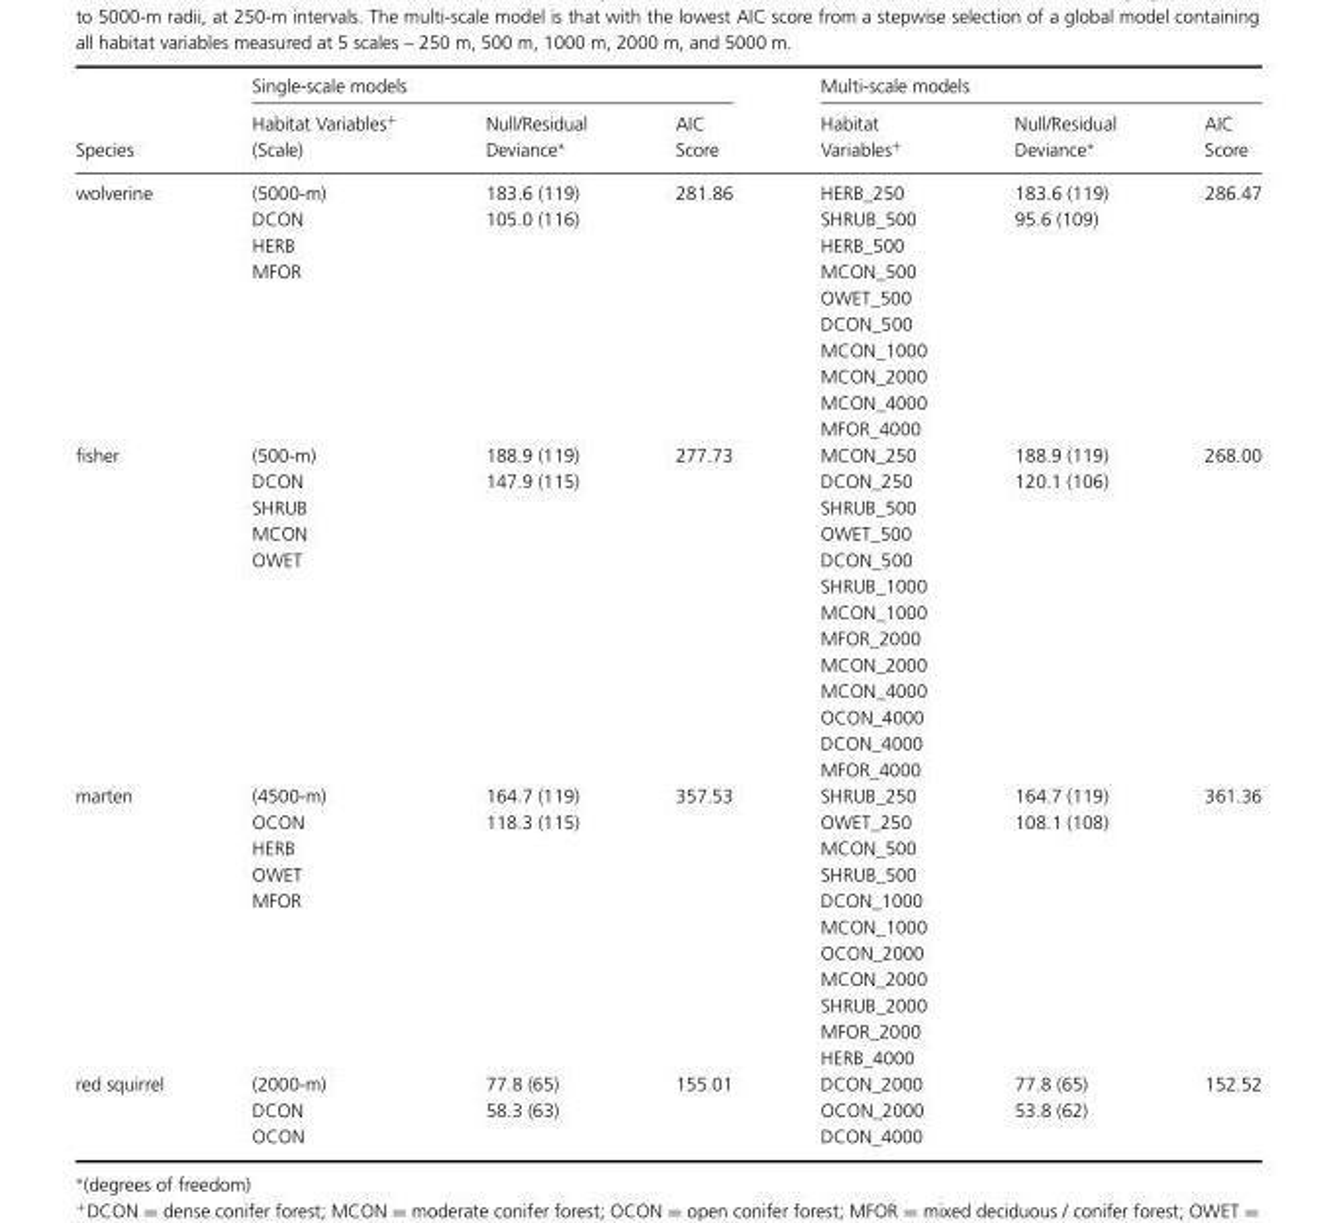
<table><thead><tr><td rowspan="2">Species</td><td colspan="3">Single-scale models</td><td colspan="3">Multi-scale models</td></tr><tr><td>Habitat Variables+ (Scale)</td><td>Null/Residual Deviance∗</td><td>AIC Score</td><td>Habitat Variables+</td><td>Null/Residual Deviance∗</td><td>AIC Score</td></tr></thead><tbody><tr><td rowspan="10">wolverine</td><td>(5000-m)</td><td>183.6 (119)</td><td>281.86</td><td>HERB_250</td><td>183.6 (119)</td><td>286.47</td></tr><tr><td>DCON</td><td>105.0 (116)</td><td></td><td>SHRUB_500</td><td>95.6 (109)</td><td></td></tr><tr><td>HERB</td><td></td><td></td><td>HERB_500</td><td></td><td></td></tr><tr><td>MFOR</td><td></td><td></td><td>MCON_500</td><td></td><td></td></tr><tr><td></td><td></td><td></td><td>OWET_500</td><td></td><td></td></tr><tr><td></td><td></td><td></td><td>DCON_500</td><td></td><td></td></tr><tr><td></td><td></td><td></td><td>MCON_1000</td><td></td><td></td></tr><tr><td></td><td></td><td></td><td>MCON_2000</td><td></td><td></td></tr><tr><td></td><td></td><td></td><td>MCON_4000</td><td></td><td></td></tr><tr><td></td><td></td><td></td><td>MFOR_4000</td><td></td><td></td></tr><tr><td rowspan="13">fisher</td><td>(500-m)</td><td>188.9 (119)</td><td>277.73</td><td>MCON_250</td><td>188.9 (119)</td><td>268.00</td></tr><tr><td>DCON</td><td>147.9 (115)</td><td></td><td>DCON_250</td><td>120.1 (106)</td><td></td></tr><tr><td>SHRUB</td><td></td><td></td><td>SHRUB_500</td><td></td><td></td></tr><tr><td>MCON</td><td></td><td></td><td>OWET_500</td><td></td><td></td></tr><tr><td>OWET</td><td></td><td></td><td>DCON_500</td><td></td><td></td></tr><tr><td></td><td></td><td></td><td>SHRUB_1000</td><td></td><td></td></tr><tr><td></td><td></td><td></td><td>MCON_1000</td><td></td><td></td></tr><tr><td></td><td></td><td></td><td>MFOR_2000</td><td></td><td></td></tr><tr><td></td><td></td><td></td><td>MCON_2000</td><td></td><td></td></tr><tr><td></td><td></td><td></td><td>MCON_4000</td><td></td><td></td></tr><tr><td></td><td></td><td></td><td>OCON_4000</td><td></td><td></td></tr><tr><td></td><td></td><td></td><td>DCON_4000</td><td></td><td></td></tr><tr><td></td><td></td><td></td><td>MFOR_4000</td><td></td><td></td></tr><tr><td rowspan="11">marten</td><td>(4500-m)</td><td>164.7 (119)</td><td>357.53</td><td>SHRUB_250</td><td>164.7 (119)</td><td>361.36</td></tr><tr><td>OCON</td><td>118.3 (115)</td><td></td><td>OWET_250</td><td>108.1 (108)</td><td></td></tr><tr><td>HERB</td><td></td><td></td><td>MCON_500</td><td></td><td></td></tr><tr><td>OWET</td><td></td><td></td><td>SHRUB_500</td><td></td><td></td></tr><tr><td>MFOR</td><td></td><td></td><td>DCON_1000</td><td></td><td></td></tr><tr><td></td><td></td><td></td><td>MCON_1000</td><td></td><td></td></tr><tr><td></td><td></td><td></td><td>OCON_2000</td><td></td><td></td></tr><tr><td></td><td></td><td></td><td>MCON_2000</td><td></td><td></td></tr><tr><td></td><td></td><td></td><td>SHRUB_2000</td><td></td><td></td></tr><tr><td></td><td></td><td></td><td>MFOR_2000</td><td></td><td></td></tr><tr><td></td><td></td><td></td><td>HERB_4000</td><td></td><td></td></tr><tr><td rowspan="3">red squirrel</td><td>(2000-m)</td><td>77.8 (65)</td><td>155.01</td><td>DCON_2000</td><td>77.8 (65)</td><td>152.52</td></tr><tr><td>DCON</td><td>58.3 (63)</td><td></td><td>OCON_2000</td><td>53.8 (62)</td><td></td></tr><tr><td>OCON</td><td></td><td></td><td>DCON_4000</td><td></td><td></td></tr></tbody></table>